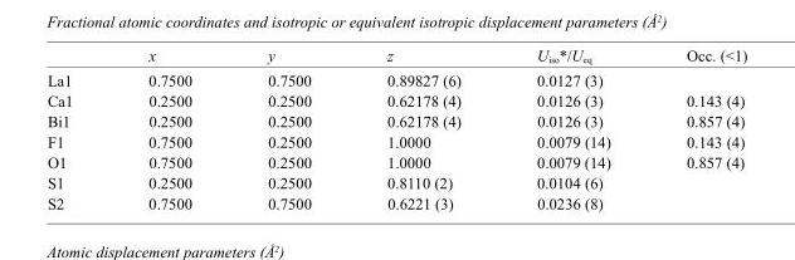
<table><thead><tr><td></td><td>x</td><td>y</td><td>z</td><td>U<sub>iso</sub>*/U<sub>eq</sub></td><td>Occ. (&lt;1)</td></tr></thead><tbody><tr><td>La1</td><td>0.7500</td><td>0.7500</td><td>0.89827 (6)</td><td>0.0127 (3)</td><td></td></tr><tr><td>Ca1</td><td>0.2500</td><td>0.2500</td><td>0.62178 (4)</td><td>0.0126 (3)</td><td>0.143 (4)</td></tr><tr><td>Bi1</td><td>0.2500</td><td>0.2500</td><td>0.62178 (4)</td><td>0.0126 (3)</td><td>0.857 (4)</td></tr><tr><td>F1</td><td>0.7500</td><td>0.2500</td><td>1.0000</td><td>0.0079 (14)</td><td>0.143 (4)</td></tr><tr><td>O1</td><td>0.7500</td><td>0.2500</td><td>1.0000</td><td>0.0079 (14)</td><td>0.857 (4)</td></tr><tr><td>S1</td><td>0.2500</td><td>0.2500</td><td>0.8110 (2)</td><td>0.0104 (6)</td><td></td></tr><tr><td>S2</td><td>0.7500</td><td>0.7500</td><td>0.6221 (3)</td><td>0.0236 (8)</td><td></td></tr></tbody></table>